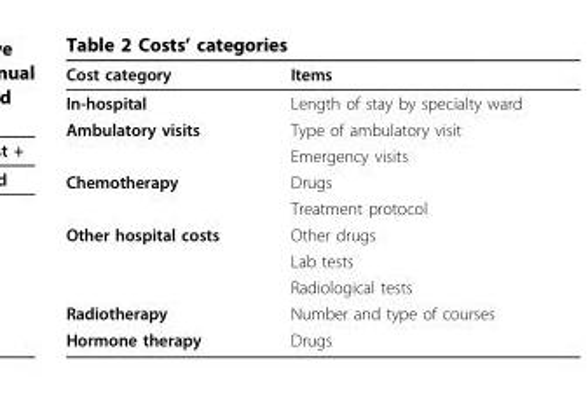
<table><thead><tr><td>Cost category</td><td>Items</td></tr></thead><tbody><tr><td>In-hospital</td><td>Length of stay by specialty ward</td></tr><tr><td rowspan="2">Ambulatory visits</td><td>Type of ambulatory visit</td></tr><tr><td>Emergency visits</td></tr><tr><td rowspan="2">Chemotherapy</td><td>Drugs</td></tr><tr><td>Treatment protocol</td></tr><tr><td rowspan="3">Other hospital costs</td><td>Other drugs</td></tr><tr><td>Lab tests</td></tr><tr><td>Radiological tests</td></tr><tr><td>Radiotherapy</td><td>Number and type of courses</td></tr><tr><td>Hormone therapy</td><td>Drugs</td></tr></tbody></table>